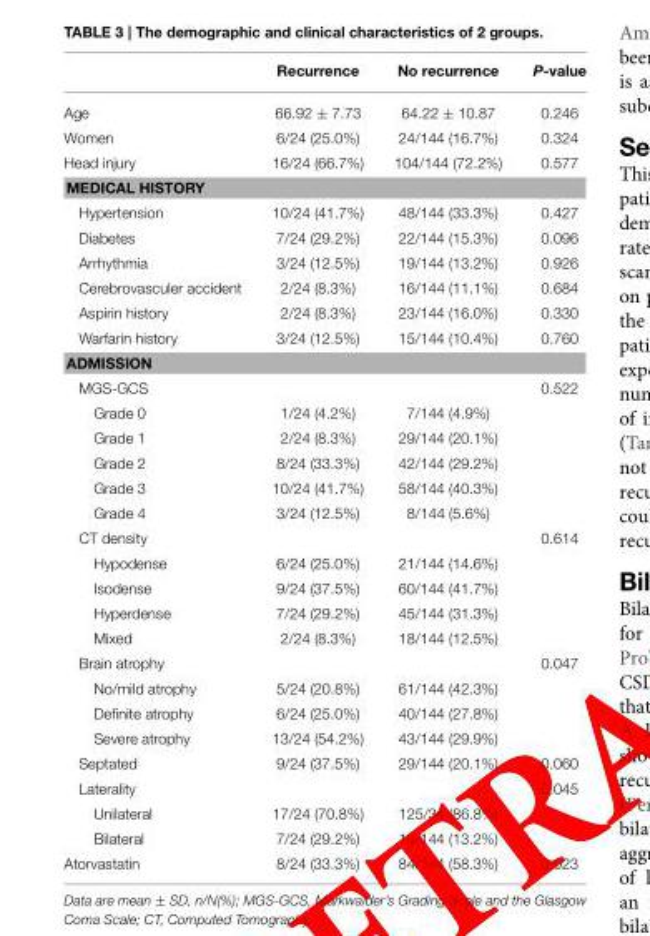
<table><thead><tr><td></td><td>Recurrence</td><td>No recurrence</td><td>P-value</td></tr></thead><tbody><tr><td>Age</td><td>66.92 ± 7.73</td><td>64.22 ± 10.87</td><td>0.246</td></tr><tr><td>Women</td><td>6/24 (25.0%)</td><td>24/144 (16.7%)</td><td>0.324</td></tr><tr><td>Head injury</td><td>16/24 (66.7%)</td><td>104/144 (72.2%)</td><td>0.577</td></tr><tr><td colspan="4">MEDICAL HISTORY</td></tr><tr><td>Hypertension</td><td>10/24 (41.7%)</td><td>48/144 (33.3%)</td><td>0.427</td></tr><tr><td>Diabetes</td><td>7/24 (29.2%)</td><td>22/144 (15.3%)</td><td>0.096</td></tr><tr><td>Arrhythmia</td><td>3/24 (12.5%)</td><td>19/144 (13.2%)</td><td>0.926</td></tr><tr><td>Cerebrovasculer accident</td><td>2/24 (8.3%)</td><td>16/144 (11.1%)</td><td>0.684</td></tr><tr><td>Aspirin history</td><td>2/24 (8.3%)</td><td>23/144 (16.0%)</td><td>0.330</td></tr><tr><td>Warfarin history</td><td>3/24 (12.5%)</td><td>15/144 (10.4%)</td><td>0.760</td></tr><tr><td colspan="4">ADMISSION</td></tr><tr><td>MGS-GCS</td><td></td><td></td><td>0.522</td></tr><tr><td>Grade 0</td><td>1/24 (4.2%)</td><td>7/144 (4.9%)</td><td></td></tr><tr><td>Grade 1</td><td>2/24 (8.3%)</td><td>29/144 (20.1%)</td><td></td></tr><tr><td>Grade 2</td><td>8/24 (33.3%)</td><td>42/144 (29.2%)</td><td></td></tr><tr><td>Grade 3</td><td>10/24 (41.7%)</td><td>58/144 (40.3%)</td><td></td></tr><tr><td>Grade 4</td><td>3/24 (12.5%)</td><td>8/144 (5.6%)</td><td></td></tr><tr><td>CT density</td><td></td><td></td><td>0.614</td></tr><tr><td>Hypodense</td><td>6/24 (25.0%)</td><td>21/144 (14.6%)</td><td></td></tr><tr><td>Isodense</td><td>9/24 (37.5%)</td><td>60/144 (41.7%)</td><td></td></tr><tr><td>Hyperdense</td><td>7/24 (29.2%)</td><td>45/144 (31.3%)</td><td></td></tr><tr><td>Mixed</td><td>2/24 (8.3%)</td><td>18/144 (12.5%)</td><td></td></tr><tr><td>Brain atrophy</td><td></td><td></td><td>0.047</td></tr><tr><td>No/mild atrophy</td><td>5/24 (20.8%)</td><td>61/144 (42.3%)</td><td></td></tr><tr><td>Definite atrophy</td><td>6/24 (25.0%)</td><td>40/144 (27.8%)</td><td></td></tr><tr><td>Severe atrophy</td><td>13/24 (54.2%)</td><td>43/144 (29.9%)</td><td></td></tr><tr><td>Septated</td><td>9/24 (37.5%)</td><td>29/144 (20.1%)</td><td>0.060</td></tr><tr><td>Laterality</td><td></td><td></td><td>0.045</td></tr><tr><td>Unilateral</td><td>17/24 (70.8%)</td><td>125/34 (86.8%)</td><td></td></tr><tr><td>Bilateral</td><td>7/24 (29.2%)</td><td>19/144 (13.2%)</td><td></td></tr><tr><td>Atorvastatin</td><td>8/24 (33.3%)</td><td>84/144 (58.3%)</td><td>0.023</td></tr></tbody></table>